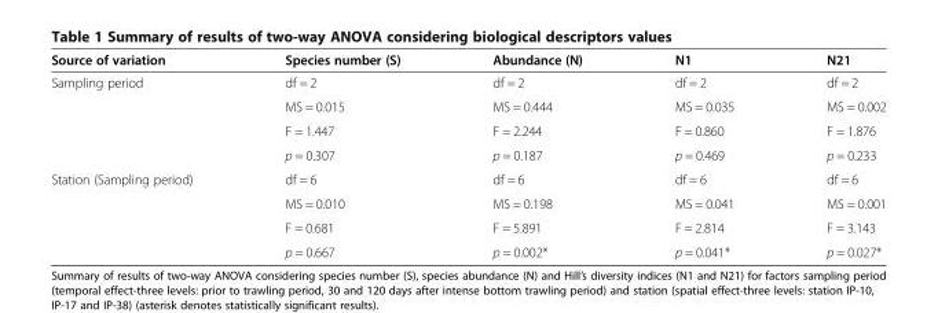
<table><thead><tr><td>Source of variation</td><td>Species number (S)</td><td>Abundance (N)</td><td>N1</td><td>N21</td></tr></thead><tbody><tr><td rowspan="4">Sampling period</td><td>df = 2</td><td>df = 2</td><td>df = 2</td><td>df = 2</td></tr><tr><td>MS = 0.015</td><td>MS = 0.444</td><td>MS = 0.035</td><td>MS = 0.002</td></tr><tr><td>F = 1.447</td><td>F = 2.244</td><td>F = 0.860</td><td>F = 1.876</td></tr><tr><td>p = 0.307</td><td>p = 0.187</td><td>p = 0.469</td><td>p = 0.233</td></tr><tr><td rowspan="4">Station (Sampling period)</td><td>df = 6</td><td>df = 6</td><td>df = 6</td><td>df = 6</td></tr><tr><td>MS = 0.010</td><td>MS = 0.198</td><td>MS = 0.041</td><td>MS = 0.001</td></tr><tr><td>F = 0.681</td><td>F = 5.891</td><td>F = 2.814</td><td>F = 3.143</td></tr><tr><td>p = 0.667</td><td>p = 0.002*</td><td>p = 0.041*</td><td>p = 0.027*</td></tr></tbody></table>